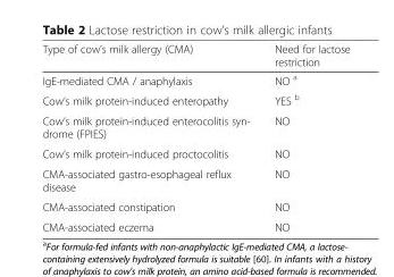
<table><thead><tr><td>Type of cow’s milk allergy (CMA)</td><td>Need for lactose restriction</td></tr></thead><tbody><tr><td>IgE-mediated CMA / anaphylaxis</td><td>NO <sup>a</sup></td></tr><tr><td>Cow’s milk protein-induced enteropathy</td><td>YES <sup>b</sup></td></tr><tr><td>Cow’s milk protein-induced enterocolitis syn- drome (FPIES)</td><td>NO</td></tr><tr><td>Cow’s milk protein-induced proctocolitis</td><td>NO</td></tr><tr><td>CMA-associated gastro-esophageal reflux disease</td><td>NO</td></tr><tr><td>CMA-associated constipation</td><td>NO</td></tr><tr><td>CMA-associated eczema</td><td>NO</td></tr></tbody></table>